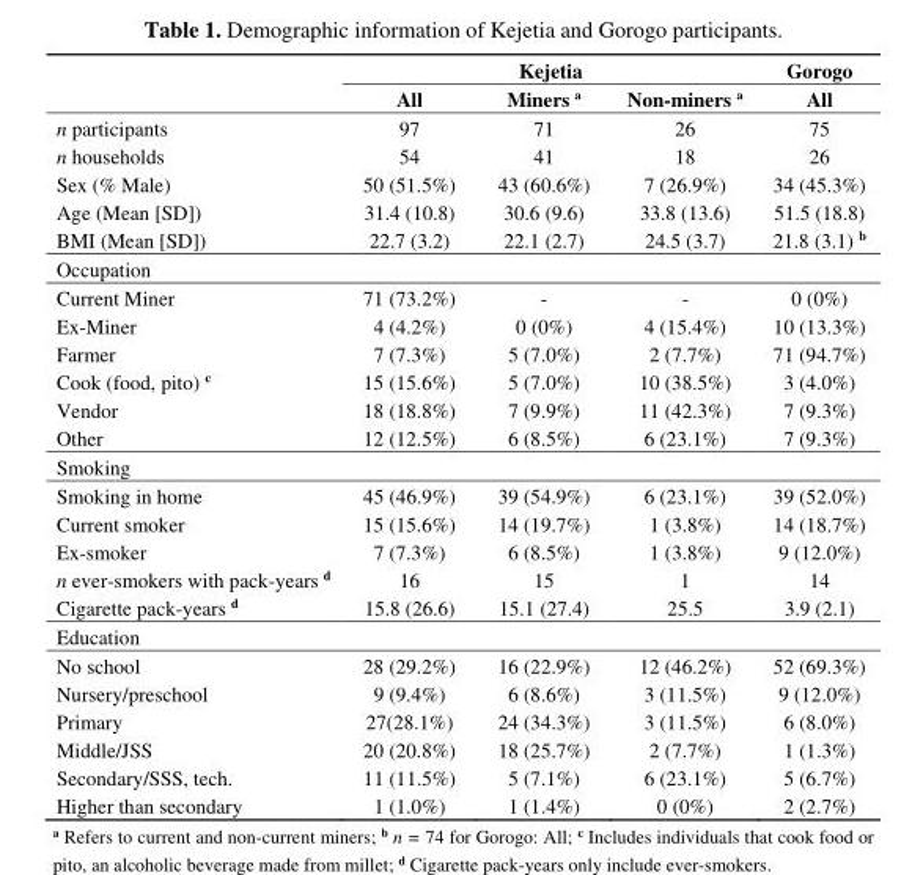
<table><thead><tr><td rowspan="2"></td><td colspan="3">Kejetia</td><td rowspan="2">Gorogo All</td></tr><tr><td>All</td><td>Miners <sup>a</sup></td><td>Non-miners <sup>a</sup></td></tr></thead><tbody><tr><td>n participants</td><td>97</td><td>71</td><td>26</td><td>75</td></tr><tr><td>n households</td><td>54</td><td>41</td><td>18</td><td>26</td></tr><tr><td>Sex (% Male)</td><td>50 (51.5%)</td><td>43 (60.6%)</td><td>7 (26.9%)</td><td>34 (45.3%)</td></tr><tr><td>Age (Mean [SD])</td><td>31.4 (10.8)</td><td>30.6 (9.6)</td><td>33.8 (13.6)</td><td>51.5 (18.8)</td></tr><tr><td>BMI (Mean [SD])</td><td>22.7 (3.2)</td><td>22.1 (2.7)</td><td>24.5 (3.7)</td><td>21.8 (3.1) <sup>b</sup></td></tr><tr><td colspan="5">Occupation</td></tr><tr><td>Current Miner</td><td>71 (73.2%)</td><td>-</td><td>-</td><td>0 (0%)</td></tr><tr><td>Ex-Miner</td><td>4 (4.2%)</td><td>0 (0%)</td><td>4 (15.4%)</td><td>10 (13.3%)</td></tr><tr><td>Farmer</td><td>7 (7.3%)</td><td>5 (7.0%)</td><td>2 (7.7%)</td><td>71 (94.7%)</td></tr><tr><td>Cook (food, pito) <sup>c</sup></td><td>15 (15.6%)</td><td>5 (7.0%)</td><td>10 (38.5%)</td><td>3 (4.0%)</td></tr><tr><td>Vendor</td><td>18 (18.8%)</td><td>7 (9.9%)</td><td>11 (42.3%)</td><td>7 (9.3%)</td></tr><tr><td>Other</td><td>12 (12.5%)</td><td>6 (8.5%)</td><td>6 (23.1%)</td><td>7 (9.3%)</td></tr><tr><td colspan="5">Smoking</td></tr><tr><td>Smoking in home</td><td>45 (46.9%)</td><td>39 (54.9%)</td><td>6 (23.1%)</td><td>39 (52.0%)</td></tr><tr><td>Current smoker</td><td>15 (15.6%)</td><td>14 (19.7%)</td><td>1 (3.8%)</td><td>14 (18.7%)</td></tr><tr><td>Ex-smoker</td><td>7 (7.3%)</td><td>6 (8.5%)</td><td>1 (3.8%)</td><td>9 (12.0%)</td></tr><tr><td>n ever-smokers with pack-years <sup>d</sup></td><td>16</td><td>15</td><td>1</td><td>14</td></tr><tr><td>Cigarette pack-years <sup>d</sup></td><td>15.8 (26.6)</td><td>15.1 (27.4)</td><td>25.5</td><td>3.9 (2.1)</td></tr><tr><td colspan="5">Education</td></tr><tr><td>No school</td><td>28 (29.2%)</td><td>16 (22.9%)</td><td>12 (46.2%)</td><td>52 (69.3%)</td></tr><tr><td>Nursery/preschool</td><td>9 (9.4%)</td><td>6 (8.6%)</td><td>3 (11.5%)</td><td>9 (12.0%)</td></tr><tr><td>Primary</td><td>27(28.1%)</td><td>24 (34.3%)</td><td>3 (11.5%)</td><td>6 (8.0%)</td></tr><tr><td>Middle/JSS</td><td>20 (20.8%)</td><td>18 (25.7%)</td><td>2 (7.7%)</td><td>1 (1.3%)</td></tr><tr><td>Secondary/SSS, tech.</td><td>11 (11.5%)</td><td>5 (7.1%)</td><td>6 (23.1%)</td><td>5 (6.7%)</td></tr><tr><td>Higher than secondary</td><td>1 (1.0%)</td><td>1 (1.4%)</td><td>0 (0%)</td><td>2 (2.7%)</td></tr></tbody></table>